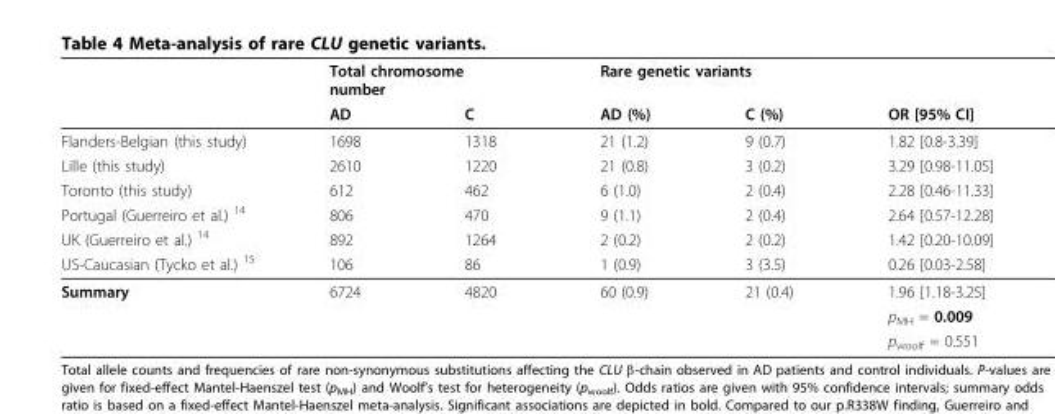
<table><thead><tr><td rowspan="2"></td><td colspan="2">Total chromosome number</td><td colspan="2">Rare genetic variants</td><td rowspan="2">OR [95% CI]</td></tr><tr><td>AD</td><td>C</td><td>AD (%)</td><td>C (%)</td></tr></thead><tbody><tr><td>Flanders-Belgian (this study)</td><td>1698</td><td>1318</td><td>21 (1.2)</td><td>9 (0.7)</td><td>1.82 [0.8-3.39]</td></tr><tr><td>Lille (this study)</td><td>2610</td><td>1220</td><td>21 (0.8)</td><td>3 (0.2)</td><td>3.29 [0.98-11.05]</td></tr><tr><td>Toronto (this study)</td><td>612</td><td>462</td><td>6 (1.0)</td><td>2 (0.4)</td><td>2.28 [0.46-11.33]</td></tr><tr><td>Portugal (Guerreiro et al.) <sup>14</sup></td><td>806</td><td>470</td><td>9 (1.1)</td><td>2 (0.4)</td><td>2.64 [0.57-12.28]</td></tr><tr><td>UK (Guerreiro et al.) <sup>14</sup></td><td>892</td><td>1264</td><td>2 (0.2)</td><td>2 (0.2)</td><td>1.42 [0.20-10.09]</td></tr><tr><td>US-Caucasian (Tycko et al.) <sup>15</sup></td><td>106</td><td>86</td><td>1 (0.9)</td><td>3 (3.5)</td><td>0.26 [0.03-2.58]</td></tr><tr><td rowspan="3">Summary</td><td>6724</td><td>4820</td><td>60 (0.9)</td><td>21 (0.4)</td><td>1.96 [1.18-3.25]</td></tr><tr><td></td><td></td><td></td><td></td><td>p<sub>MH</sub> = 0.009</td></tr><tr><td></td><td></td><td></td><td></td><td>p<sub>woolf</sub> = 0.551</td></tr></tbody></table>